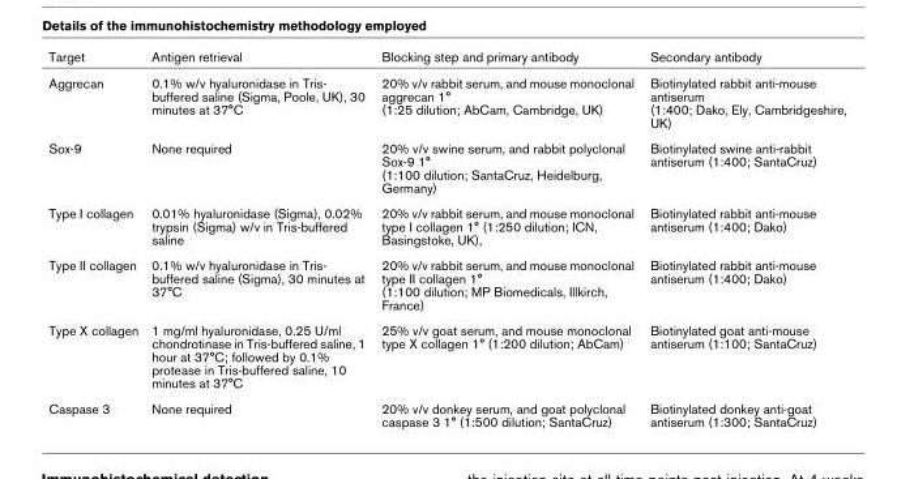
<table><thead><tr><td>Target</td><td>Antigen retrieval</td><td>Blocking step and primary antibody</td><td>Secondary antibody</td></tr></thead><tbody><tr><td>Aggrecan</td><td>0.1% w/v hyaluronidase in Tris- buffered saline (Sigma, Poole, UK), 30 minutes at 37°C</td><td>20% v/v rabbit serum, and mouse monoclonal aggrecan 1° (1:25 dilution; AbCam, Cambridge, UK)</td><td>Biotinylated rabbit anti-mouse antiserum (1:400; Dako, Ely, Cambridgeshire, UK)</td></tr><tr><td>Sox-9</td><td>None required</td><td>20% v/v swine serum, and rabbit polyclonal Sox-9 1° (1:100 dilution; SantaCruz, Heidelburg, Germany)</td><td>Biotinylated swine anti-rabbit antiserum (1:400; SantaCruz)</td></tr><tr><td>Type I collagen</td><td>0.01% hyaluronidase (Sigma), 0.02% trypsin (Sigma) w/v in Tris-buffered saline</td><td>20% v/v rabbit serum, and mouse monoclonal type I collagen 1° (1:250 dilution; ICN, Basingstoke, UK),</td><td>Biotinylated rabbit anti-mouse antiserum (1:400; Dako)</td></tr><tr><td>Type II collagen</td><td>0.1% w/v hyaluronidase in Tris- buffered saline (Sigma), 30 minutes at 37°C</td><td>20% v/v rabbit serum, and mouse monoclonal type II collagen 1° (1:100 dilution; MP Biomedicals, Illkirch, France)</td><td>Biotinylated rabbit anti-mouse antiserum (1:400; Dako)</td></tr><tr><td>Type X collagen</td><td>1 mg/ml hyaluronidase, 0.25 U/ml chondrotinase in Tris-buffered saline, 1 hour at 37°C; followed by 0.1% protease in Tris-buffered saline, 10 minutes at 37°C</td><td>25% v/v goat serum, and mouse monoclonal type X collagen 1° (1:200 dilution; AbCam)</td><td>Biotinylated goat anti-mouse antiserum (1:100; SantaCruz)</td></tr><tr><td>Caspase 3</td><td>None required</td><td>20% v/v donkey serum, and goat polyclonal caspase 3 1° (1:500 dilution; SantaCruz)</td><td>Biotinylated donkey anti-goat antiserum (1:300; SantaCruz)</td></tr></tbody></table>